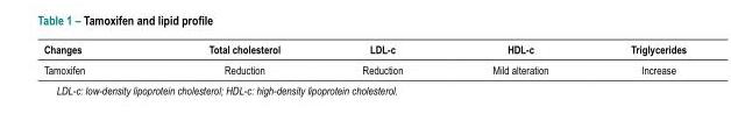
<table><thead><tr><td>Changes</td><td>Total cholesterol</td><td>LDL-c</td><td>HDL-c</td><td>Triglycerides</td></tr></thead><tbody><tr><td>Tamoxifen</td><td>Reduction</td><td>Reduction</td><td>Mild alteration</td><td>Increase</td></tr></tbody></table>